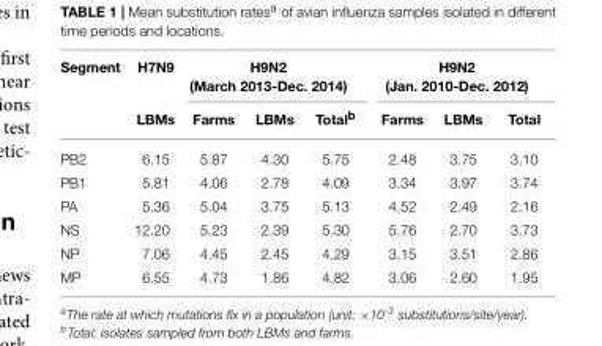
<table><thead><tr><td rowspan="2">Segment</td><td rowspan="2">H7N9 LBMs</td><td colspan="3">H9N2 (March 2013-Dec. 2014)</td><td colspan="3">H9N2 (Jan. 2010-Dec. 2012)</td></tr><tr><td>Farms</td><td>LBMs</td><td>Total<sup>b</sup></td><td>Farms</td><td>LBMs</td><td>Total</td></tr></thead><tbody><tr><td>PB2</td><td>6.15</td><td>5.87</td><td>4.30</td><td>5.75</td><td>2.48</td><td>3.75</td><td>3.10</td></tr><tr><td>PB1</td><td>5.81</td><td>4.06</td><td>2.78</td><td>4.09</td><td>3.34</td><td>3.97</td><td>3.74</td></tr><tr><td>PA</td><td>5.36</td><td>5.04</td><td>3.75</td><td>5.13</td><td>4.52</td><td>2.49</td><td>2.16</td></tr><tr><td>NS</td><td>12.20</td><td>5.23</td><td>2.39</td><td>5.30</td><td>5.76</td><td>2.70</td><td>3.73</td></tr><tr><td>NP</td><td>7.06</td><td>4.45</td><td>2.45</td><td>4.29</td><td>3.15</td><td>3.51</td><td>2.86</td></tr><tr><td>MP</td><td>6.55</td><td>4.73</td><td>1.86</td><td>4.82</td><td>3.06</td><td>2.60</td><td>1.95</td></tr></tbody></table>